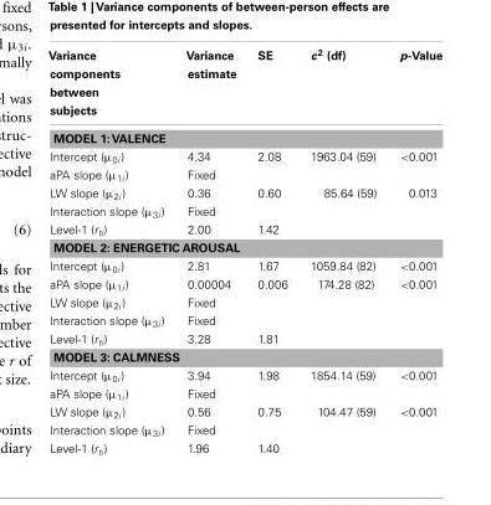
<table><thead><tr><td>Variance components between subjects</td><td>Variance estimate</td><td>SE</td><td>c<sup>2</sup> (df)</td><td>p-Value</td></tr></thead><tbody><tr><td colspan="5">MODEL 1:VALENCE</td></tr><tr><td>Intercept (µ<sub>0i</sub>)</td><td>4.34</td><td>2.08</td><td>1963.04 (59)</td><td>&lt;0.001</td></tr><tr><td>aPA slope (µ<sub>1i</sub>)</td><td>Fixed</td><td></td><td></td><td></td></tr><tr><td>LW slope (µ<sub>2i</sub>)</td><td>0.36</td><td>0.60</td><td>85.64 (59)</td><td>0.013</td></tr><tr><td>Interaction slope (µ<sub>3i</sub>)</td><td>Fixed</td><td></td><td></td><td></td></tr><tr><td>Level-1 (r<sub>ti</sub>)</td><td>2.00</td><td>1.42</td><td></td><td></td></tr><tr><td colspan="5">MODEL 2: ENERGETIC AROUSAL</td></tr><tr><td>Intercept (µ<sub>0i</sub>)</td><td>2.81</td><td>1.67</td><td>1059.84 (82)</td><td>&lt;0.001</td></tr><tr><td>aPA slope (µ<sub>1i</sub>)</td><td>0.00004</td><td>0.006</td><td>174.28 (82)</td><td>&lt;0.001</td></tr><tr><td>LW slope (µ<sub>2i</sub>)</td><td>Fixed</td><td></td><td></td><td></td></tr><tr><td>Interaction slope (µ<sub>3i</sub>)</td><td>Fixed</td><td></td><td></td><td></td></tr><tr><td>Level-1 (r<sub>ti</sub>)</td><td>3.28</td><td>1.81</td><td></td><td></td></tr><tr><td colspan="5">MODEL 3: CALMNESS</td></tr><tr><td>Intercept (µ<sub>0i</sub>)</td><td>3.94</td><td>1.98</td><td>1854.14 (59)</td><td>&lt;0.001</td></tr><tr><td>aPA slope (µ<sub>1i</sub>)</td><td>Fixed</td><td></td><td></td><td></td></tr><tr><td>LW slope (µ<sub>2i</sub>)</td><td>0.56</td><td>0.75</td><td>104.47 (59)</td><td>&lt;0.001</td></tr><tr><td>Interaction slope (µ<sub>3i</sub>)</td><td>Fixed</td><td></td><td></td><td></td></tr><tr><td>Level-1 (r<sub>ti</sub>)</td><td>1.96</td><td>1.40</td><td></td><td></td></tr></tbody></table>